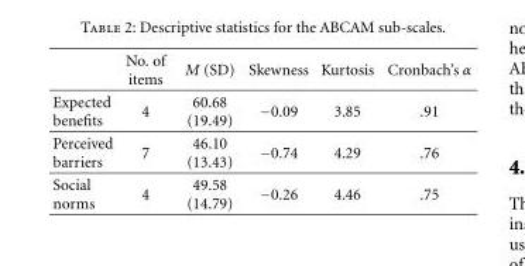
<table><thead><tr><td></td><td>No. of items</td><td>M (SD)</td><td>Skewness</td><td>Kurtosis</td><td>Cronbach’s α</td></tr></thead><tbody><tr><td>Expected benefits</td><td>4</td><td>60.68 (19.49)</td><td>−0.09</td><td>3.85</td><td>.91</td></tr><tr><td>Perceived barriers</td><td>7</td><td>46.10 (13.43)</td><td>−0.74</td><td>4.29</td><td>.76</td></tr><tr><td>Social norms</td><td>4</td><td>49.58 (14.79)</td><td>−0.26</td><td>4.46</td><td>.75</td></tr></tbody></table>